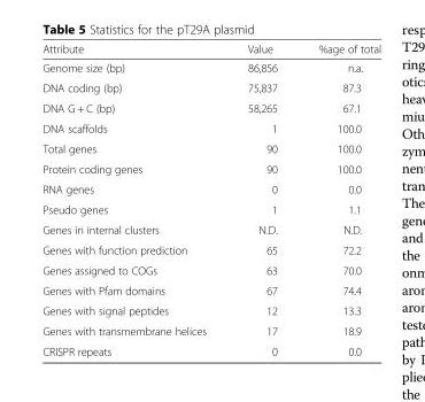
<table><thead><tr><td>Attribute</td><td>Value</td><td>%age of total</td></tr></thead><tbody><tr><td>Genome size (bp)</td><td>86,856</td><td>n.a.</td></tr><tr><td>DNA coding (bp)</td><td>75,837</td><td>87.3</td></tr><tr><td>DNA G + C (bp)</td><td>58,265</td><td>67.1</td></tr><tr><td>DNA scaffolds</td><td>1</td><td>100.0</td></tr><tr><td>Total genes</td><td>90</td><td>100.0</td></tr><tr><td>Protein coding genes</td><td>90</td><td>100.0</td></tr><tr><td>RNA genes</td><td>0</td><td>0.0</td></tr><tr><td>Pseudo genes</td><td>1</td><td>1.1</td></tr><tr><td>Genes in internal clusters</td><td>N.D.</td><td>N.D.</td></tr><tr><td>Genes with function prediction</td><td>65</td><td>72.2</td></tr><tr><td>Genes assigned to COGs</td><td>63</td><td>70.0</td></tr><tr><td>Genes with Pfam domains</td><td>67</td><td>74.4</td></tr><tr><td>Genes with signal peptides</td><td>12</td><td>13.3</td></tr><tr><td>Genes with transmembrane helices</td><td>17</td><td>18.9</td></tr><tr><td>CRISPR repeats</td><td>0</td><td>0.0</td></tr></tbody></table>